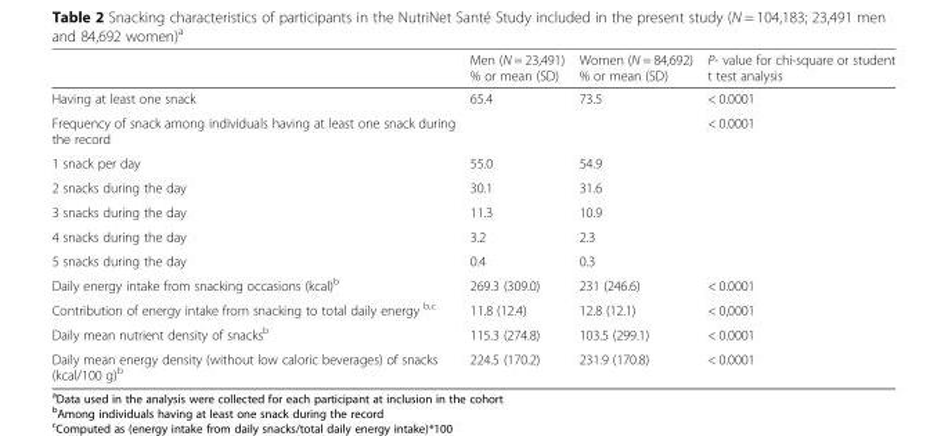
<table><thead><tr><td></td><td>Men (N = 23,491) % or mean (SD)</td><td>Women (N = 84,692) % or mean (SD)</td><td>P- value for chi-square or student t test analysis</td></tr></thead><tbody><tr><td>Having at least one snack</td><td>65.4</td><td>73.5</td><td>&lt; 0.0001</td></tr><tr><td>Frequency of snack among individuals having at least one snack during the record</td><td></td><td></td><td>&lt; 0.0001</td></tr><tr><td>1 snack per day</td><td>55.0</td><td>54.9</td><td></td></tr><tr><td>2 snacks during the day</td><td>30.1</td><td>31.6</td><td></td></tr><tr><td>3 snacks during the day</td><td>11.3</td><td>10.9</td><td></td></tr><tr><td>4 snacks during the day</td><td>3.2</td><td>2.3</td><td></td></tr><tr><td>5 snacks during the day</td><td>0.4</td><td>0.3</td><td></td></tr><tr><td>Daily energy intake from snacking occasions (kcal)<sup>b</sup></td><td>269.3 (309.0)</td><td>231 (246.6)</td><td>&lt; 0.0001</td></tr><tr><td>Contribution of energy intake from snacking to total daily energy <sup>b,c</sup></td><td>11.8 (12.4)</td><td>12.8 (12.1)</td><td>&lt; 0,0001</td></tr><tr><td>Daily mean nutrient density of snacks<sup>b</sup></td><td>115.3 (274.8)</td><td>103.5 (299.1)</td><td>&lt; 0.0001</td></tr><tr><td>Daily mean energy density (without low caloric beverages) of snacks (kcal/100 g)<sup>b</sup></td><td>224.5 (170.2)</td><td>231.9 (170.8)</td><td>&lt; 0.0001</td></tr></tbody></table>